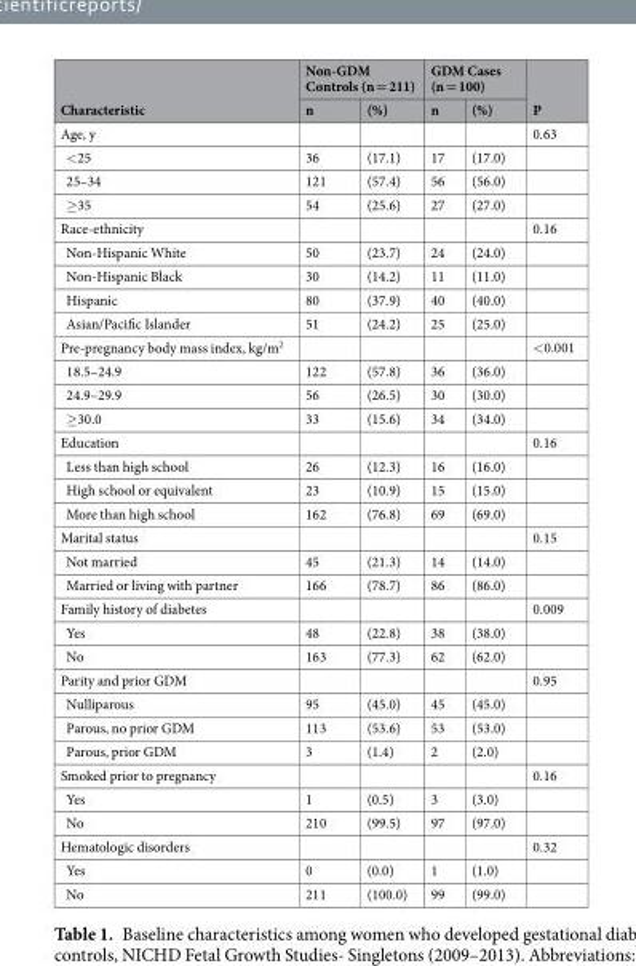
<table><thead><tr><td rowspan="2">Characteristic</td><td colspan="2">Non-GDM Controls (n = 211)</td><td colspan="2">GDM Cases (n = 100)</td><td rowspan="2">P</td></tr><tr><td>n</td><td>(%)</td><td>n</td><td>(%)</td></tr></thead><tbody><tr><td>Age, y</td><td></td><td></td><td></td><td></td><td>0.63</td></tr><tr><td>&lt;25</td><td>36</td><td>(17.1)</td><td>17</td><td>(17.0)</td><td></td></tr><tr><td>25–34</td><td>121</td><td>(57.4)</td><td>56</td><td>(56.0)</td><td></td></tr><tr><td>≥35</td><td>54</td><td>(25.6)</td><td>27</td><td>(27.0)</td><td></td></tr><tr><td>Race-ethnicity</td><td></td><td></td><td></td><td></td><td>0.16</td></tr><tr><td>Non-Hispanic White</td><td>50</td><td>(23.7)</td><td>24</td><td>(24.0)</td><td></td></tr><tr><td>Non-Hispanic Black</td><td>30</td><td>(14.2)</td><td>11</td><td>(11.0)</td><td></td></tr><tr><td>Hispanic</td><td>80</td><td>(37.9)</td><td>40</td><td>(40.0)</td><td></td></tr><tr><td>Asian/Pacific Islander</td><td>51</td><td>(24.2)</td><td>25</td><td>(25.0)</td><td></td></tr><tr><td>Pre-pregnancy body mass index, kg/m<sup>2</sup></td><td></td><td></td><td></td><td></td><td>&lt;0.001</td></tr><tr><td>18.5–24.9</td><td>122</td><td>(57.8)</td><td>36</td><td>(36.0)</td><td></td></tr><tr><td>24.9–29.9</td><td>56</td><td>(26.5)</td><td>30</td><td>(30.0)</td><td></td></tr><tr><td>≥30.0</td><td>33</td><td>(15.6)</td><td>34</td><td>(34.0)</td><td></td></tr><tr><td>Education</td><td></td><td></td><td></td><td></td><td>0.16</td></tr><tr><td>Less than high school</td><td>26</td><td>(12.3)</td><td>16</td><td>(16.0)</td><td></td></tr><tr><td>High school or equivalent</td><td>23</td><td>(10.9)</td><td>15</td><td>(15.0)</td><td></td></tr><tr><td>More than high school</td><td>162</td><td>(76.8)</td><td>69</td><td>(69.0)</td><td></td></tr><tr><td>Marital status</td><td></td><td></td><td></td><td></td><td>0.15</td></tr><tr><td>Not married</td><td>45</td><td>(21.3)</td><td>14</td><td>(14.0)</td><td></td></tr><tr><td>Married or living with partner</td><td>166</td><td>(78.7)</td><td>86</td><td>(86.0)</td><td></td></tr><tr><td>Family history of diabetes</td><td></td><td></td><td></td><td></td><td>0.009</td></tr><tr><td>Yes</td><td>48</td><td>(22.8)</td><td>38</td><td>(38.0)</td><td></td></tr><tr><td>No</td><td>163</td><td>(77.3)</td><td>62</td><td>(62.0)</td><td></td></tr><tr><td>Parity and prior GDM</td><td></td><td></td><td></td><td></td><td>0.95</td></tr><tr><td>Nulliparous</td><td>95</td><td>(45.0)</td><td>45</td><td>(45.0)</td><td></td></tr><tr><td>Parous, no prior GDM</td><td>113</td><td>(53.6)</td><td>53</td><td>(53.0)</td><td></td></tr><tr><td>Parous, prior GDM</td><td>3</td><td>(1.4)</td><td>2</td><td>(2.0)</td><td></td></tr><tr><td>Smoked prior to pregnancy</td><td></td><td></td><td></td><td></td><td>0.16</td></tr><tr><td>Yes</td><td>1</td><td>(0.5)</td><td>3</td><td>(3.0)</td><td></td></tr><tr><td>No</td><td>210</td><td>(99.5)</td><td>97</td><td>(97.0)</td><td></td></tr><tr><td>Hematologic disorders</td><td></td><td></td><td></td><td></td><td>0.32</td></tr><tr><td>Yes</td><td>0</td><td>(0.0)</td><td>1</td><td>(1.0)</td><td></td></tr><tr><td>No</td><td>211</td><td>(100.0)</td><td>99</td><td>(99.0)</td><td></td></tr></tbody></table>